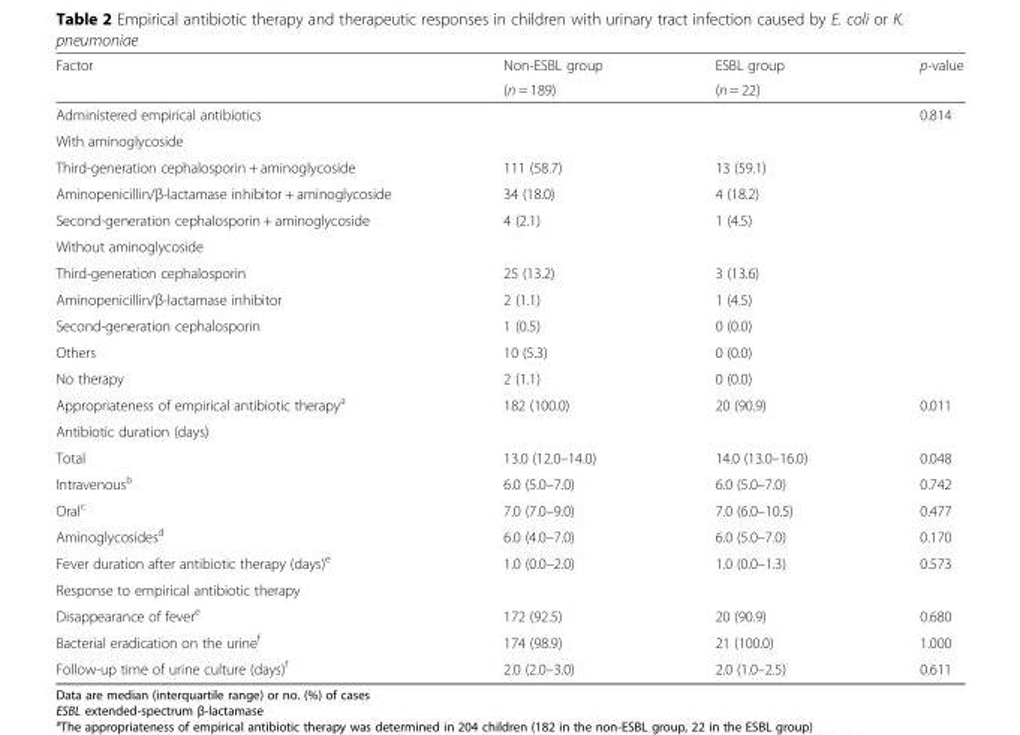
<table><thead><tr><td rowspan="2">Factor</td><td rowspan="2">Non-ESBL group (n = 189)</td><td rowspan="2">ESBL group (n = 22)</td><td rowspan="2">p-value</td></tr><tr></tr></thead><tbody><tr><td>Administered empirical antibiotics</td><td></td><td></td><td>0.814</td></tr><tr><td colspan="4">With aminoglycoside</td></tr><tr><td>Third-generation cephalosporin + aminoglycoside</td><td>111 (58.7)</td><td>13 (59.1)</td><td></td></tr><tr><td>Aminopenicillin/β-lactamase inhibitor + aminoglycoside</td><td>34 (18.0)</td><td>4 (18.2)</td><td></td></tr><tr><td>Second-generation cephalosporin + aminoglycoside</td><td>4 (2.1)</td><td>1 (4.5)</td><td></td></tr><tr><td colspan="4">Without aminoglycoside</td></tr><tr><td>Third-generation cephalosporin</td><td>25 (13.2)</td><td>3 (13.6)</td><td></td></tr><tr><td>Aminopenicillin/β-lactamase inhibitor</td><td>2 (1.1)</td><td>1 (4.5)</td><td></td></tr><tr><td>Second-generation cephalosporin</td><td>1 (0.5)</td><td>0 (0.0)</td><td></td></tr><tr><td>Others</td><td>10 (5.3)</td><td>0 (0.0)</td><td></td></tr><tr><td>No therapy</td><td>2 (1.1)</td><td>0 (0.0)</td><td></td></tr><tr><td>Appropriateness of empirical antibiotic therapy<sup>a</sup></td><td>182 (100.0)</td><td>20 (90.9)</td><td>0.011</td></tr><tr><td colspan="4">Antibiotic duration (days)</td></tr><tr><td>Total</td><td>13.0 (12.0–14.0)</td><td>14.0 (13.0–16.0)</td><td>0.048</td></tr><tr><td>Intravenous<sup>b</sup></td><td>6.0 (5.0–7.0)</td><td>6.0 (5.0–7.0)</td><td>0.742</td></tr><tr><td>Oral<sup>c</sup></td><td>7.0 (7.0–9.0)</td><td>7.0 (6.0–10.5)</td><td>0.477</td></tr><tr><td>Aminoglycosides<sup>d</sup></td><td>6.0 (4.0–7.0)</td><td>6.0 (5.0–7.0)</td><td>0.170</td></tr><tr><td>Fever duration after antibiotic therapy (days)<sup>e</sup></td><td>1.0 (0.0–2.0)</td><td>1.0 (0.0–1.3)</td><td>0.573</td></tr><tr><td colspan="4">Response to empirical antibiotic therapy</td></tr><tr><td>Disappearance of fever<sup>e</sup></td><td>172 (92.5)</td><td>20 (90.9)</td><td>0.680</td></tr><tr><td>Bacterial eradication on the urine<sup>f</sup></td><td>174 (98.9)</td><td>21 (100.0)</td><td>1.000</td></tr><tr><td>Follow-up time of urine culture (days)<sup>f</sup></td><td>2.0 (2.0–3.0)</td><td>2.0 (1.0–2.5)</td><td>0.611</td></tr></tbody></table>